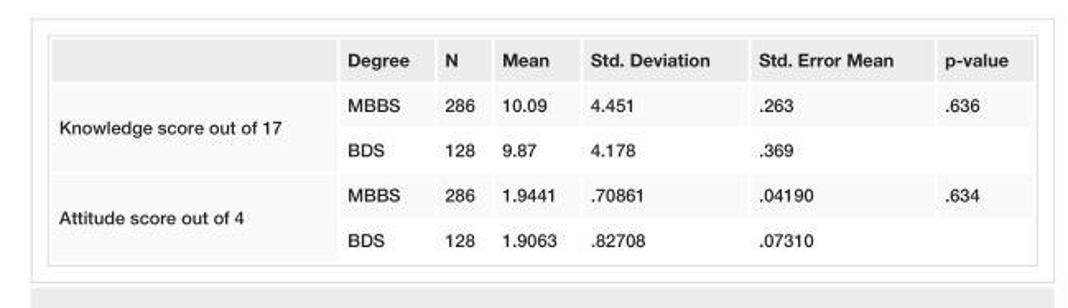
<table><thead><tr><td></td><td>Degree</td><td>N</td><td>Mean</td><td>Std. Deviation</td><td>Std. Error Mean</td><td>p-value</td></tr></thead><tbody><tr><td rowspan="2">Knowledge score out of 17</td><td>MBBS</td><td>286</td><td>10.09</td><td>4.451</td><td>.263</td><td>.636</td></tr><tr><td>BDS</td><td>128</td><td>9.87</td><td>4.178</td><td>.369</td><td></td></tr><tr><td rowspan="2">Attitude score out of 4</td><td>MBBS</td><td>286</td><td>1.9441</td><td>.70861</td><td>.04190</td><td>.634</td></tr><tr><td>BDS</td><td>128</td><td>1.9063</td><td>.82708</td><td>.07310</td><td></td></tr></tbody></table>